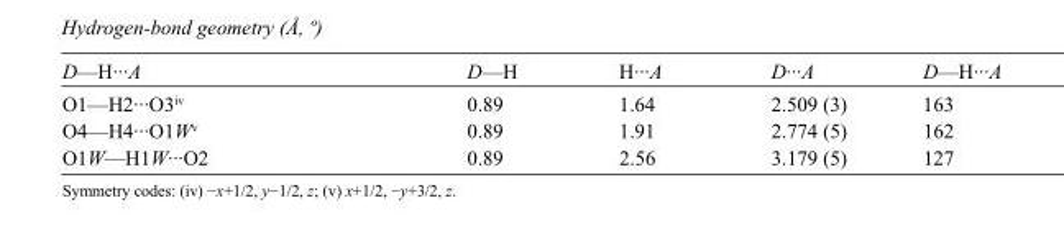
<table><tbody><tr><td>D—H···A</td><td>D—H</td><td>H···A</td><td>D···A</td><td>D—H···A</td></tr><tr><td>O1—H2···O3<sup>iv</sup></td><td>0.89</td><td>1.64</td><td>2.509 (3)</td><td>163</td></tr><tr><td>O4—H4···O1W<sup>v</sup></td><td>0.89</td><td>1.91</td><td>2.774 (5)</td><td>162</td></tr><tr><td>O1W—H1W···O2</td><td>0.89</td><td>2.56</td><td>3.179 (5)</td><td>127</td></tr></tbody></table>